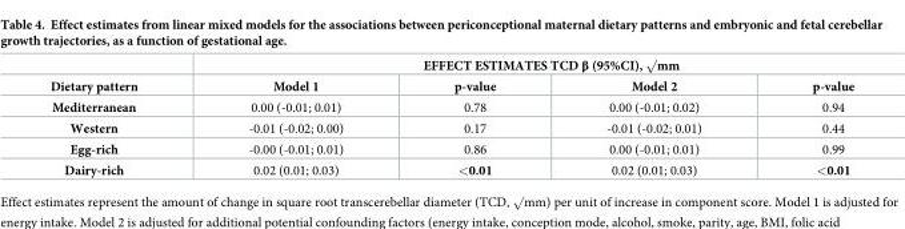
<table><thead><tr><td rowspan="2">Dietary pattern</td><td colspan="4">EFFECT ESTIMATES TCD β (95%CI), √mm</td></tr><tr><td>Model 1</td><td>p-value</td><td>Model 2</td><td>p-value</td></tr></thead><tbody><tr><td>Mediterranean</td><td>0.00 (-0.01; 0.01)</td><td>0.78</td><td>0.00 (-0.01; 0.02)</td><td>0.94</td></tr><tr><td>Western</td><td>-0.01 (-0.02; 0.00)</td><td>0.17</td><td>-0.01 (-0.02; 0.01)</td><td>0.44</td></tr><tr><td>Egg-rich</td><td>-0.00 (-0.01; 0.01)</td><td>0.86</td><td>0.00 (-0.01; 0.01)</td><td>0.99</td></tr><tr><td>Dairy-rich</td><td>0.02 (0.01; 0.03)</td><td>&lt;0.01</td><td>0.02 (0.01; 0.03)</td><td>&lt;0.01</td></tr></tbody></table>